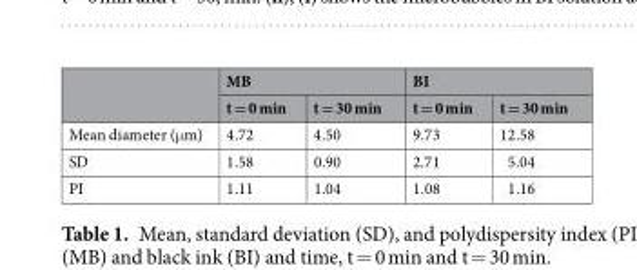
<table><thead><tr><td rowspan="2"></td><td colspan="2">MB</td><td colspan="2">BI</td></tr><tr><td>t = 0 min</td><td>t = 30 min</td><td>t = 0 min</td><td>t = 30 min</td></tr></thead><tbody><tr><td>Mean diameter (μm)</td><td>4.72</td><td>4.50</td><td>9.73</td><td>12.58</td></tr><tr><td>SD</td><td>1.58</td><td>0.90</td><td>2.71</td><td>5.04</td></tr><tr><td>PI</td><td>1.11</td><td>1.04</td><td>1.08</td><td>1.16</td></tr></tbody></table>